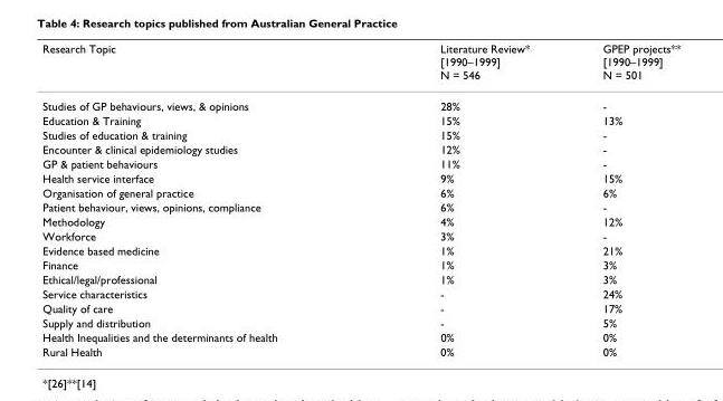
<table><thead><tr><td>Research Topic</td><td>Literature Review* [1990–1999] N = 546</td><td>GPEP projects** [1990–1999] N = 501</td></tr></thead><tbody><tr><td>Studies of GP behaviours, views, &amp; opinions</td><td>28%</td><td>-</td></tr><tr><td>Education &amp; Training</td><td>15%</td><td>13%</td></tr><tr><td>Studies of education &amp; training</td><td>15%</td><td>-</td></tr><tr><td>Encounter &amp; clinical epidemiology studies</td><td>12%</td><td>-</td></tr><tr><td>GP &amp; patient behaviours</td><td>11%</td><td>-</td></tr><tr><td>Health service interface</td><td>9%</td><td>15%</td></tr><tr><td>Organisation of general practice</td><td>6%</td><td>6%</td></tr><tr><td>Patient behaviour, views, opinions, compliance</td><td>6%</td><td>-</td></tr><tr><td>Methodology</td><td>4%</td><td>12%</td></tr><tr><td>Workforce</td><td>3%</td><td>-</td></tr><tr><td>Evidence based medicine</td><td>1%</td><td>21%</td></tr><tr><td>Finance</td><td>1%</td><td>3%</td></tr><tr><td>Ethical/legal/professional</td><td>1%</td><td>3%</td></tr><tr><td>Service characteristics</td><td>-</td><td>24%</td></tr><tr><td>Quality of care</td><td>-</td><td>17%</td></tr><tr><td>Supply and distribution</td><td>-</td><td>5%</td></tr><tr><td>Health Inequalities and the determinants of health</td><td>0%</td><td>0%</td></tr><tr><td>Rural Health</td><td>0%</td><td>0%</td></tr></tbody></table>